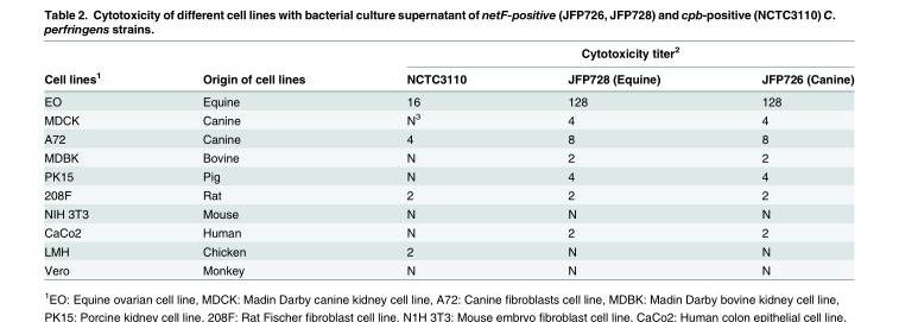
<table><thead><tr><td rowspan="2">Cell lines<sup>1</sup></td><td rowspan="2">Origin of cell lines</td><td colspan="3">Cytotoxicity titer<sup>2</sup></td></tr><tr><td>NCTC3110</td><td>JFP728 (Equine)</td><td>JFP726 (Canine)</td></tr></thead><tbody><tr><td>EO</td><td>Equine</td><td>16</td><td>128</td><td>128</td></tr><tr><td>MDCK</td><td>Canine</td><td>N<sup>3</sup></td><td>4</td><td>4</td></tr><tr><td>A72</td><td>Canine</td><td>4</td><td>8</td><td>8</td></tr><tr><td>MDBK</td><td>Bovine</td><td>N</td><td>2</td><td>2</td></tr><tr><td>PK15</td><td>Pig</td><td>N</td><td>4</td><td>4</td></tr><tr><td>208F</td><td>Rat</td><td>2</td><td>2</td><td>2</td></tr><tr><td>NIH 3T3</td><td>Mouse</td><td>N</td><td>N</td><td>N</td></tr><tr><td>CaCo2</td><td>Human</td><td>N</td><td>2</td><td>2</td></tr><tr><td>LMH</td><td>Chicken</td><td>2</td><td>N</td><td>N</td></tr><tr><td>Vero</td><td>Monkey</td><td>N</td><td>N</td><td>N</td></tr></tbody></table>